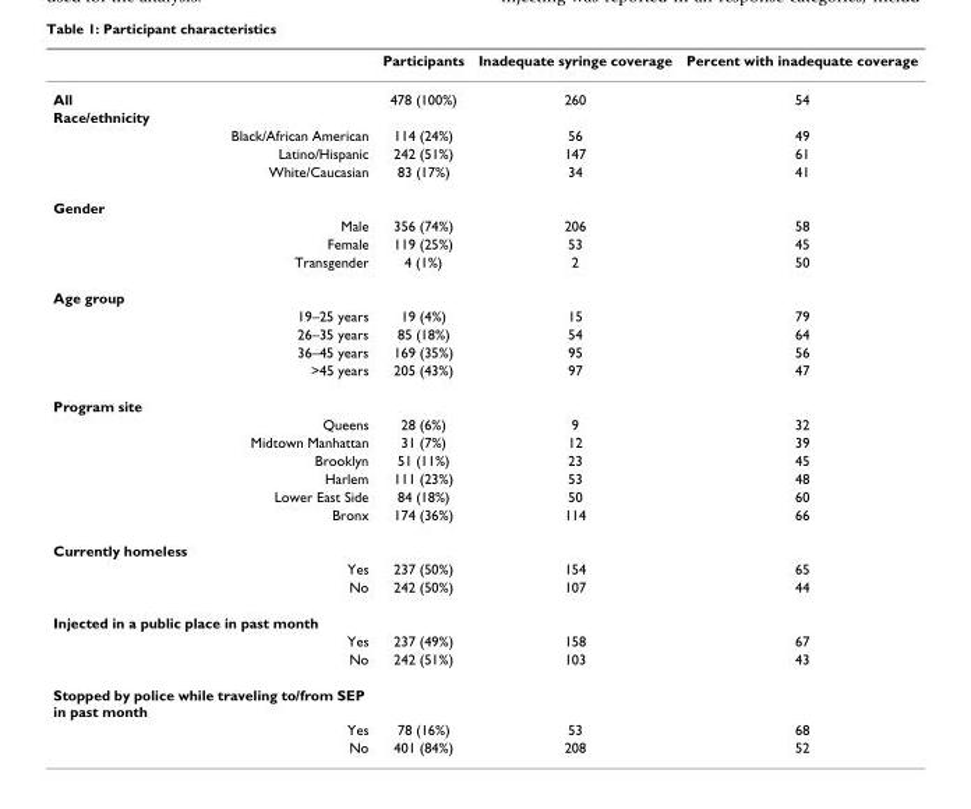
<table><thead><tr><td></td><td>Participants</td><td>Inadequate syringe coverage</td><td>Percent with inadequate coverage</td></tr></thead><tbody><tr><td>All</td><td>478 (100%)</td><td>260</td><td>54</td></tr><tr><td colspan="4">Race/ethnicity</td></tr><tr><td>Black/African American</td><td>114 (24%)</td><td>56</td><td>49</td></tr><tr><td>Latino/Hispanic</td><td>242 (51%)</td><td>147</td><td>61</td></tr><tr><td>White/Caucasian</td><td>83 (17%)</td><td>34</td><td>41</td></tr><tr><td colspan="4">Gender</td></tr><tr><td>Male</td><td>356 (74%)</td><td>206</td><td>58</td></tr><tr><td>Female</td><td>119 (25%)</td><td>53</td><td>45</td></tr><tr><td>Transgender</td><td>4 (1%)</td><td>2</td><td>50</td></tr><tr><td colspan="4">Age group</td></tr><tr><td>19–25 years</td><td>19 (4%)</td><td>15</td><td>79</td></tr><tr><td>26–35 years</td><td>85 (18%)</td><td>54</td><td>64</td></tr><tr><td>36–45 years</td><td>169 (35%)</td><td>95</td><td>56</td></tr><tr><td>&gt;45 years</td><td>205 (43%)</td><td>97</td><td>47</td></tr><tr><td colspan="4">Program site</td></tr><tr><td>Queens</td><td>28 (6%)</td><td>9</td><td>32</td></tr><tr><td>Midtown Manhattan</td><td>31 (7%)</td><td>12</td><td>39</td></tr><tr><td>Brooklyn</td><td>51 (11%)</td><td>23</td><td>45</td></tr><tr><td>Harlem</td><td>111 (23%)</td><td>53</td><td>48</td></tr><tr><td>Lower East Side</td><td>84 (18%)</td><td>50</td><td>60</td></tr><tr><td>Bronx</td><td>174 (36%)</td><td>114</td><td>66</td></tr><tr><td colspan="4">Currently homeless</td></tr><tr><td>Yes</td><td>237 (50%)</td><td>154</td><td>65</td></tr><tr><td>No</td><td>242 (50%)</td><td>107</td><td>44</td></tr><tr><td colspan="4">Injected in a public place in past month</td></tr><tr><td>Yes</td><td>237 (49%)</td><td>158</td><td>67</td></tr><tr><td>No</td><td>242 (51%)</td><td>103</td><td>43</td></tr><tr><td colspan="4">Stopped by police while traveling to/from SEP in past month</td></tr><tr><td>Yes</td><td>78 (16%)</td><td>53</td><td>68</td></tr><tr><td>No</td><td>401 (84%)</td><td>208</td><td>52</td></tr></tbody></table>